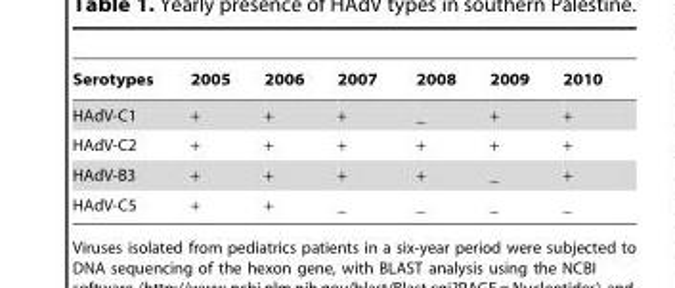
<table><thead><tr><td>Serotypes</td><td>2005</td><td>2006</td><td>2007</td><td>2008</td><td>2009</td><td>2010</td></tr></thead><tbody><tr><td>HAdV-C1</td><td>+</td><td>+</td><td>+</td><td>_</td><td>+</td><td>+</td></tr><tr><td>HAdV-C2</td><td>+</td><td>+</td><td>+</td><td>+</td><td>+</td><td>+</td></tr><tr><td>HAdV-B3</td><td>+</td><td>+</td><td>+</td><td>+</td><td>_</td><td>+</td></tr><tr><td>HAdV-C5</td><td>+</td><td>+</td><td>_</td><td>_</td><td>_</td><td>_</td></tr></tbody></table>